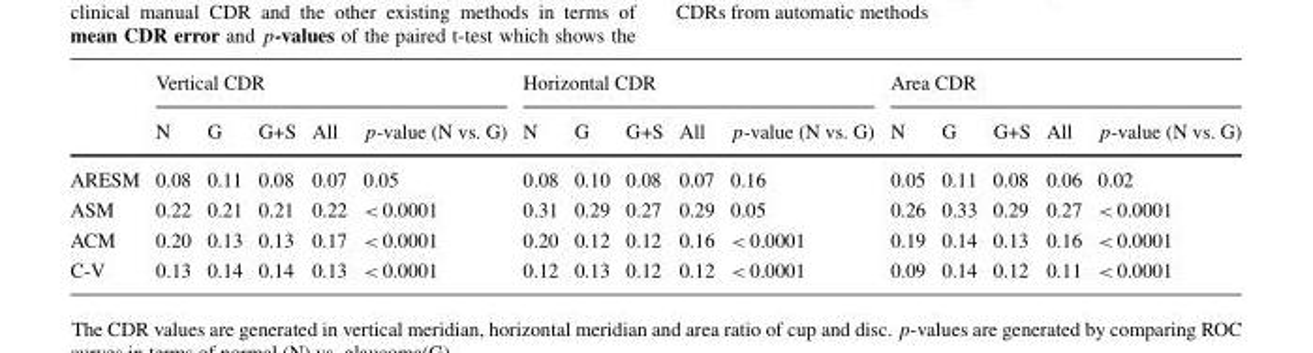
<table><thead><tr><td rowspan="2"></td><td colspan="4">Vertical CDR</td><td colspan="6">Horizontal CDR</td><td colspan="5">Area CDR</td></tr><tr><td>N</td><td>G</td><td>G+S</td><td>All</td><td>p-value (N vs. G)</td><td>N</td><td>G</td><td>G+S</td><td>All</td><td>p-value (N vs. G)</td><td>N</td><td>G</td><td>G+S</td><td>All</td><td>p-value (N vs. G)</td></tr></thead><tbody><tr><td>ARESM</td><td>0.08</td><td>0.11</td><td>0.08</td><td>0.07</td><td>0.05</td><td>0.08</td><td>0.10</td><td>0.08</td><td>0.07</td><td>0.16</td><td>0.05</td><td>0.11</td><td>0.08</td><td>0.06</td><td>0.02</td></tr><tr><td>ASM</td><td>0.22</td><td>0.21</td><td>0.21</td><td>0.22</td><td>&lt; 0.0001</td><td>0.31</td><td>0.29</td><td>0.27</td><td>0.29</td><td>0.05</td><td>0.26</td><td>0.33</td><td>0.29</td><td>0.27</td><td>&lt; 0.0001</td></tr><tr><td>ACM</td><td>0.20</td><td>0.13</td><td>0.13</td><td>0.17</td><td>&lt; 0.0001</td><td>0.20</td><td>0.12</td><td>0.12</td><td>0.16</td><td>&lt; 0.0001</td><td>0.19</td><td>0.14</td><td>0.13</td><td>0.16</td><td>&lt; 0.0001</td></tr><tr><td>C-V</td><td>0.13</td><td>0.14</td><td>0.14</td><td>0.13</td><td>&lt; 0.0001</td><td>0.12</td><td>0.13</td><td>0.12</td><td>0.12</td><td>&lt; 0.0001</td><td>0.09</td><td>0.14</td><td>0.12</td><td>0.11</td><td>&lt; 0.0001</td></tr></tbody></table>